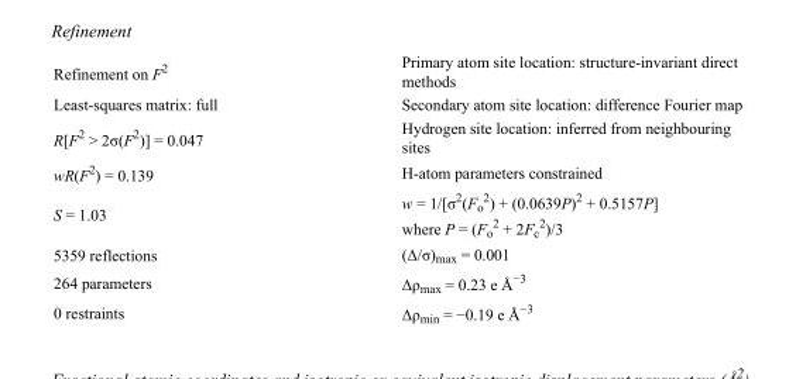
<table><tbody><tr><td>Refinement on F<sup>2</sup></td><td>Primary atom site location: structure-invariant direct methods</td></tr><tr><td>Least-squares matrix: full</td><td>Secondary atom site location: difference Fourier map</td></tr><tr><td>R[F<sup>2</sup> &gt; 2σ(F<sup>2</sup>)] = 0.047</td><td>Hydrogen site location: inferred from neighbouring sites</td></tr><tr><td>wR(F<sup>2</sup>) = 0.139</td><td>H-atom parameters constrained</td></tr><tr><td>S = 1.03</td><td>w = 1/[σ<sup>2</sup>(F<sub>o</sub> <sup>2</sup>) + (0.0639P)<sup>2</sup> + 0.5157P] where P = (F<sub>o</sub> <sup>2</sup> + 2F<sub>c</sub> <sup>2</sup>)/3</td></tr><tr><td>5359 reflections</td><td>(Δ/σ)<sub>max</sub> = 0.001</td></tr><tr><td>264 parameters</td><td>Δρ<sub>max</sub> = 0.23 e Å<sup>−3</sup></td></tr><tr><td>0 restraints</td><td>Δρ<sub>min</sub> = −0.19 e Å<sup>−3</sup></td></tr></tbody></table>